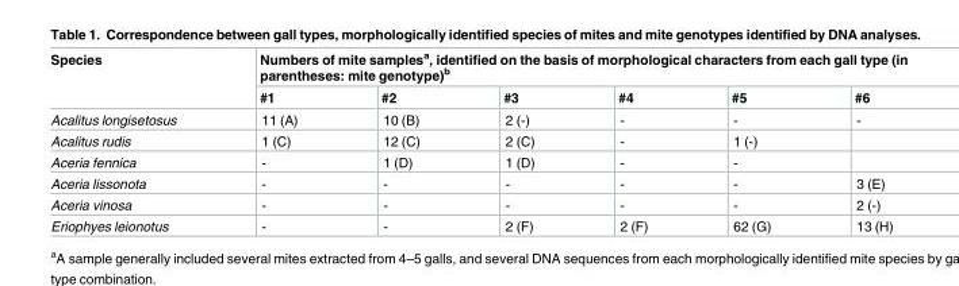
<table><thead><tr><td rowspan="2">Species</td><td colspan="6">Numbers of mite samples<sup>a</sup>, identified on the basis of morphological characters from each gall type (in parentheses: mite genotype)<sup>b</sup></td></tr><tr><td>#1</td><td>#2</td><td>#3</td><td>#4</td><td>#5</td><td>#6</td></tr></thead><tbody><tr><td>Acalitus longisetosus</td><td>11 (A)</td><td>10 (B)</td><td>2 (-)</td><td>-</td><td>-</td><td>-</td></tr><tr><td>Acalitus rudis</td><td>1 (C)</td><td>12 (C)</td><td>2 (C)</td><td>-</td><td>1 (-)</td><td></td></tr><tr><td>Aceria fennica</td><td>-</td><td>1 (D)</td><td>1 (D)</td><td>-</td><td>-</td><td></td></tr><tr><td>Aceria lissonota</td><td>-</td><td>-</td><td>-</td><td>-</td><td>-</td><td>3 (E)</td></tr><tr><td>Aceria vinosa</td><td>-</td><td>-</td><td>-</td><td>-</td><td>-</td><td>2 (-)</td></tr><tr><td>Eriophyes leionotus</td><td>-</td><td>-</td><td>2 (F)</td><td>2 (F)</td><td>62 (G)</td><td>13 (H)</td></tr></tbody></table>